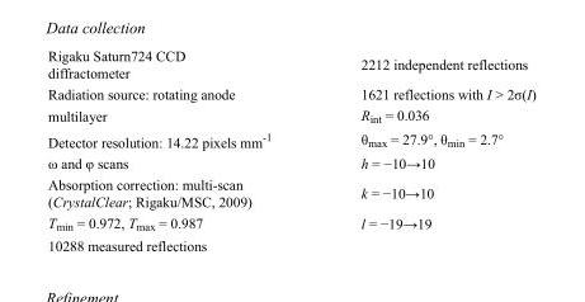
<table><tbody><tr><td>Rigaku Saturn724 CCD diffractometer</td><td>2212 independent reflections</td></tr><tr><td>Radiation source: rotating anode</td><td>1621 reflections with I &gt; 2σ(I)</td></tr><tr><td>multilayer</td><td>R<sub>int</sub> = 0.036</td></tr><tr><td>Detector resolution: 14.22 pixels mm<sup>-1</sup></td><td>θ<sub>max</sub> = 27.9°, θ<sub>min</sub> = 2.7°</td></tr><tr><td>ω and φ scans</td><td>h = −10→10</td></tr><tr><td>Absorption correction: multi-scan (CrystalClear; Rigaku/MSC, 2009)</td><td>k = −10→10</td></tr><tr><td>T<sub>min</sub> = 0.972, T<sub>max</sub> = 0.987</td><td>l = −19→19</td></tr><tr><td>10288 measured reflections</td><td></td></tr></tbody></table>